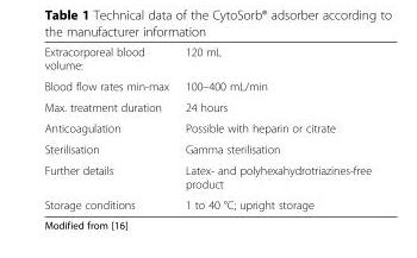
<table><tbody><tr><td>Extracorporeal blood volume:</td><td>120 mL</td></tr><tr><td>Blood flow rates min-max</td><td>100–400 mL/min</td></tr><tr><td>Max. treatment duration</td><td>24 hours</td></tr><tr><td>Anticoagulation</td><td>Possible with heparin or citrate</td></tr><tr><td>Sterilisation</td><td>Gamma sterilisation</td></tr><tr><td>Further details</td><td>Latex- and polyhexahydrotriazines-free product</td></tr><tr><td>Storage conditions</td><td>1 to 40 °C; upright storage</td></tr></tbody></table>